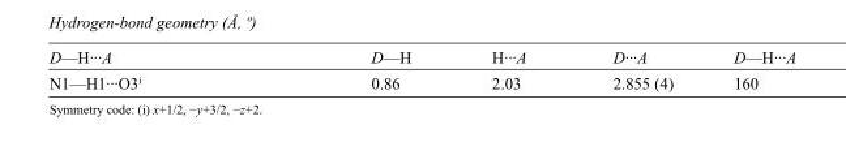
<table><tbody><tr><td>D—H···A</td><td>D—H</td><td>H···A</td><td>D···A</td><td>D—H···A</td></tr><tr><td>N1—H1···O3<sup>i</sup></td><td>0.86</td><td>2.03</td><td>2.855 (4)</td><td>160</td></tr></tbody></table>